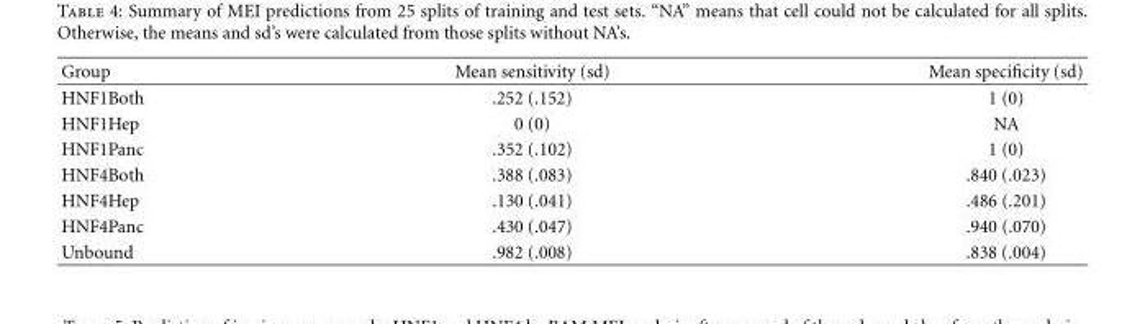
<table><thead><tr><td>Group</td><td>Mean sensitivity (sd)</td><td>Mean specificity (sd)</td></tr></thead><tbody><tr><td>HNF1Both</td><td>.252 (.152)</td><td>1 (0)</td></tr><tr><td>HNF1Hep</td><td>0 (0)</td><td>NA</td></tr><tr><td>HNF1Panc</td><td>.352 (.102)</td><td>1 (0)</td></tr><tr><td>HNF4Both</td><td>.388 (.083)</td><td>.840 (.023)</td></tr><tr><td>HNF4Hep</td><td>.130 (.041)</td><td>.486 (.201)</td></tr><tr><td>HNF4Panc</td><td>.430 (.047)</td><td>.940 (.070)</td></tr><tr><td>Unbound</td><td>.982 (.008)</td><td>.838 (.004)</td></tr></tbody></table>